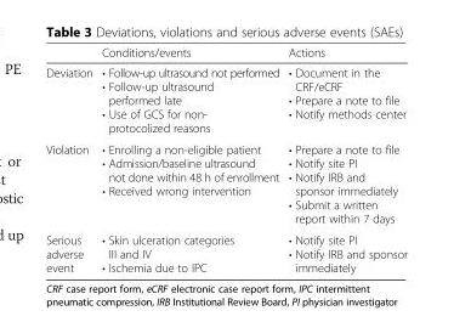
<table><thead><tr><td></td><td>Conditions/events</td><td>Actions</td></tr></thead><tbody><tr><td>Deviation</td><td>• Follow-up ultrasound not performed • Follow-up ultrasound performed late • Use of GCS for non- protocolized reasons</td><td>• Document in the CRF/eCRF • Prepare a note to file • Notify methods center</td></tr><tr><td>Violation</td><td>• Enrolling a non-eligible patient • Admission/baseline ultrasound not done within 48 h of enrollment • Received wrong intervention</td><td>• Prepare a note to file • Notify site PI • Notify IRB and sponsor immediately • Submit a written report within 7 days</td></tr><tr><td>Serious adverse event</td><td>• Skin ulceration categories III and IV • Ischemia due to IPC</td><td>• Notify site PI • Notify IRB and sponsor immediately</td></tr></tbody></table>